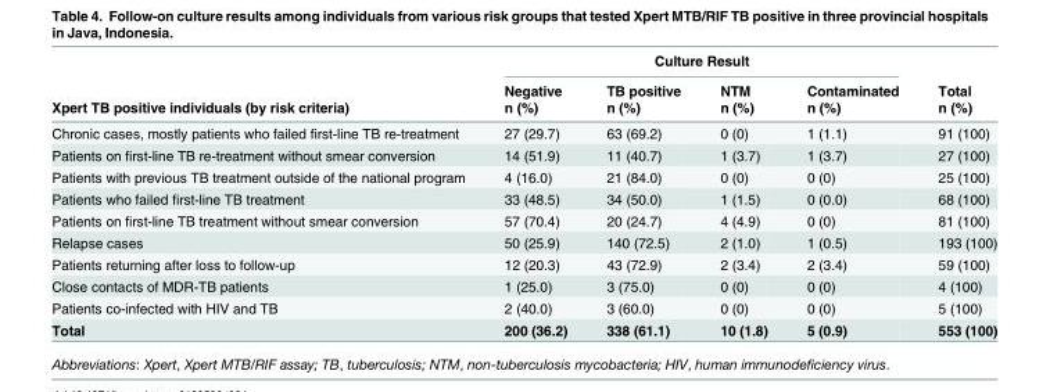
<table><thead><tr><td rowspan="3">Xpert TB positive individuals (by risk criteria)</td><td colspan="4">Culture Result</td><td rowspan="3">Total n (%)</td></tr><tr><td rowspan="2">Negative n (%)</td><td rowspan="2">TB positive n (%)</td><td rowspan="2">NTM n (%)</td><td rowspan="2">Contaminated n (%)</td></tr><tr></tr></thead><tbody><tr><td>Chronic cases, mostly patients who failed first-line TB re-treatment</td><td>27 (29.7)</td><td>63 (69.2)</td><td>0 (0)</td><td>1 (1.1)</td><td>91 (100)</td></tr><tr><td>Patients on first-line TB re-treatment without smear conversion</td><td>14 (51.9)</td><td>11 (40.7)</td><td>1 (3.7)</td><td>1 (3.7)</td><td>27 (100)</td></tr><tr><td>Patients with previous TB treatment outside of the national program</td><td>4 (16.0)</td><td>21 (84.0)</td><td>0 (0)</td><td>0 (0)</td><td>25 (100)</td></tr><tr><td>Patients who failed first-line TB treatment</td><td>33 (48.5)</td><td>34 (50.0)</td><td>1 (1.5)</td><td>0 (0.0)</td><td>68 (100)</td></tr><tr><td>Patients on first-line TB treatment without smear conversion</td><td>57 (70.4)</td><td>20 (24.7)</td><td>4 (4.9)</td><td>0 (0)</td><td>81 (100)</td></tr><tr><td>Relapse cases</td><td>50 (25.9)</td><td>140 (72.5)</td><td>2 (1.0)</td><td>1 (0.5)</td><td>193 (100)</td></tr><tr><td>Patients returning after loss to follow-up</td><td>12 (20.3)</td><td>43 (72.9)</td><td>2 (3.4)</td><td>2 (3.4)</td><td>59 (100)</td></tr><tr><td>Close contacts of MDR-TB patients</td><td>1 (25.0)</td><td>3 (75.0)</td><td>0 (0)</td><td>0 (0)</td><td>4 (100)</td></tr><tr><td>Patients co-infected with HIV and TB</td><td>2 (40.0)</td><td>3 (60.0)</td><td>0 (0)</td><td>0 (0)</td><td>5 (100)</td></tr><tr><td>Total</td><td>200 (36.2)</td><td>338 (61.1)</td><td>10 (1.8)</td><td>5 (0.9)</td><td>553 (100)</td></tr></tbody></table>